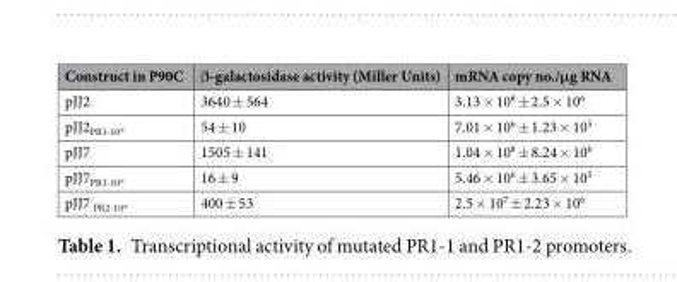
<table><thead><tr><td>Construct in P90C</td><td>β-galactosidase activity (Miller Units)</td><td>mRNA copy no./μg RNA</td></tr></thead><tbody><tr><td>pJJ2</td><td>3640 ± 564</td><td>3.13 × 10<sup>8</sup> ± 2.5 × 10<sup>6</sup></td></tr><tr><td>pJJ2<sub>PR1-10*</sub></td><td>54 ± 10</td><td>7.01 × 10<sup>6</sup> ± 1.23 × 10<sup>5</sup></td></tr><tr><td>pJJ7</td><td>1505 ± 141</td><td>1.04 × 10<sup>8</sup> ± 8.24 × 10<sup>6</sup></td></tr><tr><td>pJJ7<sub>PR1-10*</sub></td><td>16 ± 9</td><td>5.46 × 10<sup>6</sup> ± 3.65 × 10<sup>5</sup></td></tr><tr><td>pJJ7 <sub>PR2-10*</sub></td><td>400 ± 53</td><td>2.5 × 10<sup>7</sup> ± 2.23 × 10<sup>6</sup></td></tr></tbody></table>